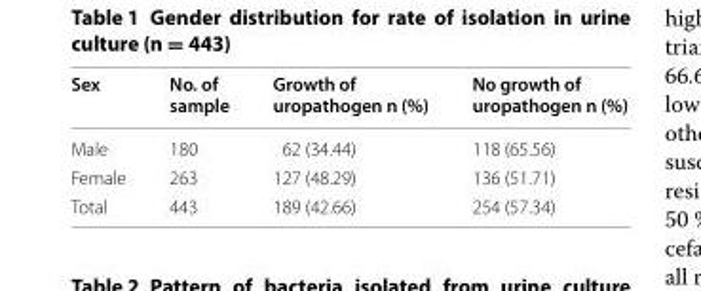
<table><thead><tr><td>Sex</td><td>No. of sample</td><td>Growth of uropathogen n (%)</td><td>No growth of uropathogen n (%)</td></tr></thead><tbody><tr><td>Male</td><td>180</td><td>62 (34.44)</td><td>118 (65.56)</td></tr><tr><td>Female</td><td>263</td><td>127 (48.29)</td><td>136 (51.71)</td></tr><tr><td>Total</td><td>443</td><td>189 (42.66)</td><td>254 (57.34)</td></tr></tbody></table>